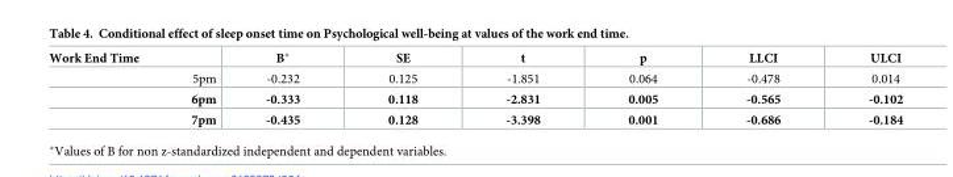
<table><thead><tr><td>Work End Time</td><td>B*</td><td>SE</td><td>t</td><td>p</td><td>LLCI</td><td>ULCI</td></tr></thead><tbody><tr><td>5pm</td><td>-0.232</td><td>0.125</td><td>-1.851</td><td>0.064</td><td>-0.478</td><td>0.014</td></tr><tr><td>6pm</td><td>-0.333</td><td>0.118</td><td>-2.831</td><td>0.005</td><td>-0.565</td><td>-0.102</td></tr><tr><td>7pm</td><td>-0.435</td><td>0.128</td><td>-3.398</td><td>0.001</td><td>-0.686</td><td>-0.184</td></tr></tbody></table>